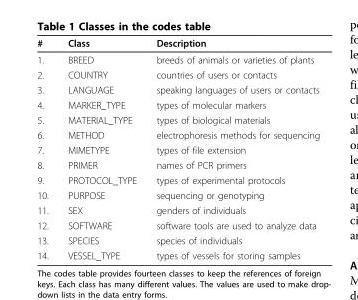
<table><thead><tr><td>#</td><td>Class</td><td>Description</td></tr></thead><tbody><tr><td>1.</td><td>BREED</td><td>breeds of animals or varieties of plants</td></tr><tr><td>2.</td><td>COUNTRY</td><td>countries of users or contacts</td></tr><tr><td>3.</td><td>LANGUAGE</td><td>speaking languages of users or contacts</td></tr><tr><td>4.</td><td>MARKER_TYPE</td><td>types of molecular markers</td></tr><tr><td>5.</td><td>MATERIAL_TYPE</td><td>types of biological materials</td></tr><tr><td>6.</td><td>METHOD</td><td>electrophoresis methods for sequencing</td></tr><tr><td>7.</td><td>MIMETYPE</td><td>types of file extension</td></tr><tr><td>8.</td><td>PRIMER</td><td>names of PCR primers</td></tr><tr><td>9.</td><td>PROTOCOL_TYPE</td><td>types of experimental protocols</td></tr><tr><td>10.</td><td>PURPOSE</td><td>sequencing or genotyping</td></tr><tr><td>11.</td><td>SEX</td><td>genders of individuals</td></tr><tr><td>12.</td><td>SOFTWARE</td><td>software tools are used to analyze data</td></tr><tr><td>13.</td><td>SPECIES</td><td>species of individuals</td></tr><tr><td>14.</td><td>VESSEL_TYPE</td><td>types of vessels for storing samples</td></tr></tbody></table>